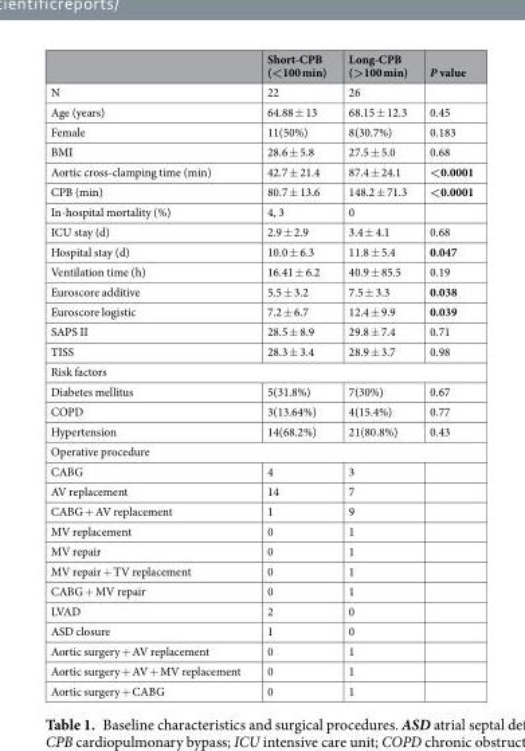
<table><thead><tr><td></td><td>Short-CPB (&lt;100 min)</td><td>Long-CPB (&gt;100 min)</td><td>P value</td></tr></thead><tbody><tr><td>N</td><td>22</td><td>26</td><td></td></tr><tr><td>Age (years)</td><td>64.88 ± 13</td><td>68.15 ± 12.3</td><td>0.45</td></tr><tr><td>Female</td><td>11(50%)</td><td>8(30.7%)</td><td>0.183</td></tr><tr><td>BMI</td><td>28.6 ± 5.8</td><td>27.5 ± 5.0</td><td>0.68</td></tr><tr><td>Aortic cross-clamping time (min)</td><td>42.7 ± 21.4</td><td>87.4 ± 24.1</td><td>&lt;0.0001</td></tr><tr><td>CPB (min)</td><td>80.7 ± 13.6</td><td>148.2 ± 71.3</td><td>&lt;0.0001</td></tr><tr><td>In-hospital mortality (%)</td><td>4, 3</td><td>0</td><td></td></tr><tr><td>ICU stay (d)</td><td>2.9 ± 2.9</td><td>3.4 ± 4.1</td><td>0.68</td></tr><tr><td>Hospital stay (d)</td><td>10.0 ± 6.3</td><td>11.8 ± 5.4</td><td>0.047</td></tr><tr><td>Ventilation time (h)</td><td>16.41 ± 6.2</td><td>40.9 ± 85.5</td><td>0.19</td></tr><tr><td>Euroscore additive</td><td>5.5 ± 3.2</td><td>7.5 ± 3.3</td><td>0.038</td></tr><tr><td>Euroscore logistic</td><td>7.2 ± 6.7</td><td>12.4 ± 9.9</td><td>0.039</td></tr><tr><td>SAPS II</td><td>28.5 ± 8.9</td><td>29.8 ± 7.4</td><td>0.71</td></tr><tr><td>TISS</td><td>28.3 ± 3.4</td><td>28.9 ± 3.7</td><td>0.98</td></tr><tr><td colspan="4">Risk factors</td></tr><tr><td>Diabetes mellitus</td><td>5(31.8%)</td><td>7(30%)</td><td>0.67</td></tr><tr><td>COPD</td><td>3(13.64%)</td><td>4(15.4%)</td><td>0.77</td></tr><tr><td>Hypertension</td><td>14(68.2%)</td><td>21(80.8%)</td><td>0.43</td></tr><tr><td colspan="4">Operative procedure</td></tr><tr><td>CABG</td><td>4</td><td>3</td><td></td></tr><tr><td>AV replacement</td><td>14</td><td>7</td><td></td></tr><tr><td>CABG + AV replacement</td><td>1</td><td>9</td><td></td></tr><tr><td>MV replacement</td><td>0</td><td>1</td><td></td></tr><tr><td>MV repair</td><td>0</td><td>1</td><td></td></tr><tr><td>MV repair + TV replacement</td><td>0</td><td>1</td><td></td></tr><tr><td>CABG + MV repair</td><td>0</td><td>1</td><td></td></tr><tr><td>LVAD</td><td>2</td><td>0</td><td></td></tr><tr><td>ASD closure</td><td>1</td><td>0</td><td></td></tr><tr><td>Aortic surgery + AV replacement</td><td>0</td><td>1</td><td></td></tr><tr><td>Aortic surgery + AV + MV replacement</td><td>0</td><td>1</td><td></td></tr><tr><td>Aortic surgery + CABG</td><td>0</td><td>1</td><td></td></tr></tbody></table>